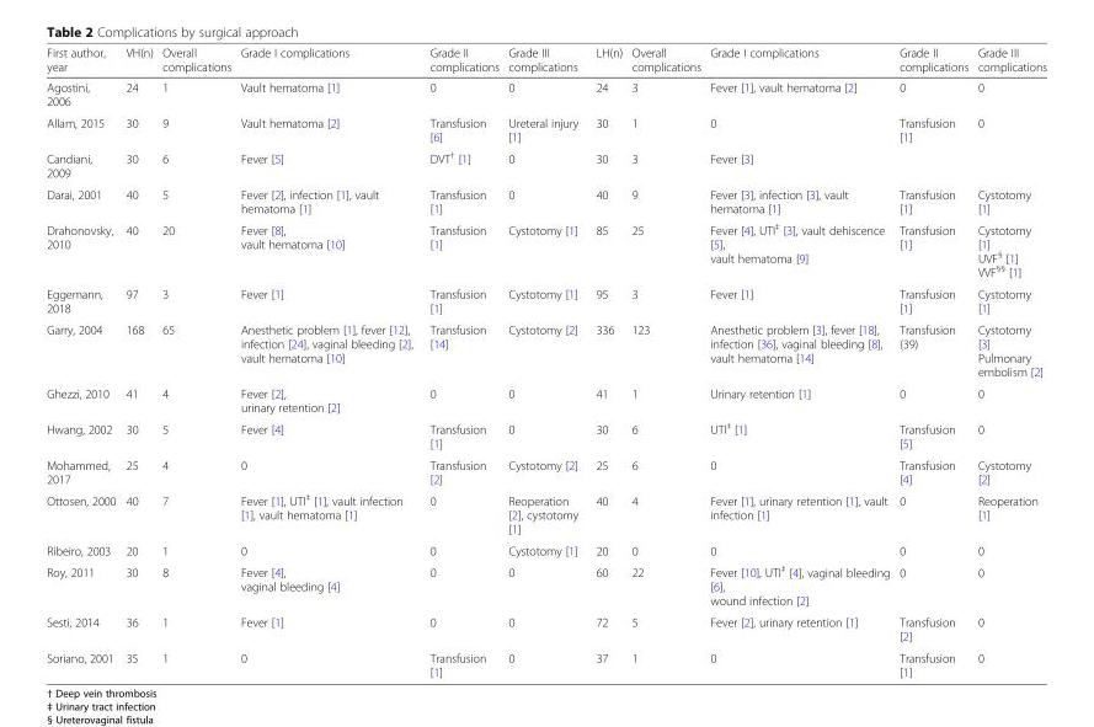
<table><thead><tr><td>First author, year</td><td>VH(n)</td><td>Overall complications</td><td>Grade I complications</td><td>Grade II complications</td><td>Grade III complications</td><td>LH(n)</td><td>Overall complications</td><td>Grade I complications</td><td>Grade II complications</td><td>Grade III complications</td></tr></thead><tbody><tr><td>Agostini, 2006</td><td>24</td><td>1</td><td>Vault hematoma [1]</td><td>0</td><td>0</td><td>24</td><td>3</td><td>Fever [1], vault hematoma [2]</td><td>0</td><td>0</td></tr><tr><td>Allam, 2015</td><td>30</td><td>9</td><td>Vault hematoma [2]</td><td>Transfusion [6]</td><td>Ureteral injury [1]</td><td>30</td><td>1</td><td>0</td><td>Transfusion [1]</td><td>0</td></tr><tr><td>Candiani, 2009</td><td>30</td><td>6</td><td>Fever [5]</td><td>DVT<sup>†</sup> [1]</td><td>0</td><td>30</td><td>3</td><td>Fever [3]</td><td></td><td></td></tr><tr><td>Darai, 2001</td><td>40</td><td>5</td><td>Fever [2], infection [1], vault hematoma [1]</td><td>Transfusion [1]</td><td>0</td><td>40</td><td>9</td><td>Fever [3], infection [3], vault hematoma [1]</td><td>Transfusion [1]</td><td>Cystotomy [1]</td></tr><tr><td>Drahonovsky, 2010</td><td>40</td><td>20</td><td>Fever [8], vault hematoma [10]</td><td>Transfusion [1]</td><td>Cystotomy [1]</td><td>85</td><td>25</td><td>Fever [4], UTI<sup>‡</sup> [3], vault dehiscence [5], vault hematoma [9]</td><td>Transfusion [1]</td><td>Cystotomy [1] UVF<sup>§</sup> [1] VVF<sup>§§</sup> [1]</td></tr><tr><td>Eggemann, 2018</td><td>97</td><td>3</td><td>Fever [1]</td><td>Transfusion [1]</td><td>Cystotomy [1]</td><td>95</td><td>3</td><td>Fever [1]</td><td>Transfusion [1]</td><td>Cystotomy [1]</td></tr><tr><td>Garry, 2004</td><td>168</td><td>65</td><td>Anesthetic problem [1], fever [12], infection [24], vaginal bleeding [2], vault hematoma [10]</td><td>Transfusion [14]</td><td>Cystotomy [2]</td><td>336</td><td>123</td><td>Anesthetic problem [3], fever [18], infection [36], vaginal bleeding [8], vault hematoma [14]</td><td>Transfusion (39)</td><td>Cystotomy [3] Pulmonary embolism [2]</td></tr><tr><td>Ghezzi, 2010</td><td>41</td><td>4</td><td>Fever [2], urinary retention [2]</td><td>0</td><td>0</td><td>41</td><td>1</td><td>Urinary retention [1]</td><td>0</td><td>0</td></tr><tr><td>Hwang, 2002</td><td>30</td><td>5</td><td>Fever [4]</td><td>Transfusion [1]</td><td>0</td><td>30</td><td>6</td><td>UTI<sup>‡</sup> [1]</td><td>Transfusion [5]</td><td>0</td></tr><tr><td>Mohammed, 2017</td><td>25</td><td>4</td><td>0</td><td>Transfusion [2]</td><td>Cystotomy [2]</td><td>25</td><td>6</td><td>0</td><td>Transfusion [4]</td><td>Cystotomy [2]</td></tr><tr><td>Ottosen, 2000</td><td>40</td><td>7</td><td>Fever [1], UTI<sup>‡</sup> [1], vault infection [1], vault hematoma [1]</td><td>0</td><td>Reoperation [2], cystotomy [1]</td><td>40</td><td>4</td><td>Fever [1], urinary retention [1], vault infection [1]</td><td>0</td><td>Reoperation [1]</td></tr><tr><td>Ribeiro, 2003</td><td>20</td><td>1</td><td>0</td><td>0</td><td>Cystotomy [1]</td><td>20</td><td>0</td><td>0</td><td>0</td><td>0</td></tr><tr><td>Roy, 2011</td><td>30</td><td>8</td><td>Fever [4], vaginal bleeding [4]</td><td>0</td><td>0</td><td>60</td><td>22</td><td>Fever [10], UTI<sup>‡</sup> [4], vaginal bleeding [6], wound infection [2]</td><td>0</td><td>0</td></tr><tr><td>Sesti, 2014</td><td>36</td><td>1</td><td>Fever [1]</td><td>0</td><td>0</td><td>72</td><td>5</td><td>Fever [2], urinary retention [1]</td><td>Transfusion [2]</td><td>0</td></tr><tr><td>Soriano, 2001</td><td>35</td><td>1</td><td>0</td><td>Transfusion [1]</td><td>0</td><td>37</td><td>1</td><td>0</td><td>Transfusion [1]</td><td>0</td></tr></tbody></table>